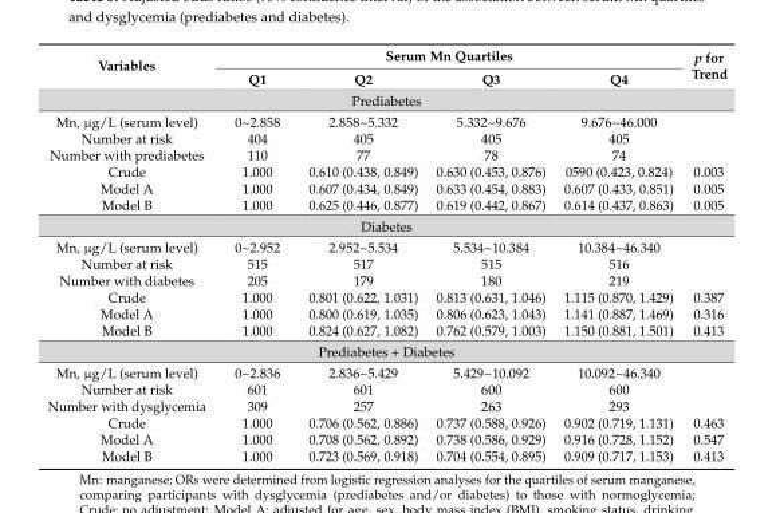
<table><thead><tr><td rowspan="2">Variables</td><td colspan="4">Serum Mn Quartiles</td><td rowspan="2">p for Trend</td></tr><tr><td>Q1</td><td>Q2</td><td>Q3</td><td>Q4</td></tr></thead><tbody><tr><td colspan="6">Prediabetes</td></tr><tr><td>Mn, µg/L (serum level)</td><td>0~2.858</td><td>2.858~5.332</td><td>5.332~9.676</td><td>9.676~46.000</td><td></td></tr><tr><td>Number at risk</td><td>404</td><td>405</td><td>405</td><td>405</td><td></td></tr><tr><td>Number with prediabetes</td><td>110</td><td>77</td><td>78</td><td>74</td><td></td></tr><tr><td>Crude</td><td>1.000</td><td>0.610 (0.438, 0.849)</td><td>0.630 (0.453, 0.876)</td><td>0590 (0.423, 0.824)</td><td>0.003</td></tr><tr><td>Model A</td><td>1.000</td><td>0.607 (0.434, 0.849)</td><td>0.633 (0.454, 0.883)</td><td>0.607 (0.433, 0.851)</td><td>0.005</td></tr><tr><td>Model B</td><td>1.000</td><td>0.625 (0.446, 0.877)</td><td>0.619 (0.442, 0.867)</td><td>0.614 (0.437, 0.863)</td><td>0.005</td></tr><tr><td colspan="6">Diabetes</td></tr><tr><td>Mn, µg/L (serum level)</td><td>0~2.952</td><td>2.952~5.534</td><td>5.534~10.384</td><td>10.384~46.340</td><td></td></tr><tr><td>Number at risk</td><td>515</td><td>517</td><td>515</td><td>516</td><td></td></tr><tr><td>Number with diabetes</td><td>205</td><td>179</td><td>180</td><td>219</td><td></td></tr><tr><td>Crude</td><td>1.000</td><td>0.801 (0.622, 1.031)</td><td>0.813 (0.631, 1.046)</td><td>1.115 (0.870, 1.429)</td><td>0.387</td></tr><tr><td>Model A</td><td>1.000</td><td>0.800 (0.619, 1.035)</td><td>0.806 (0.623, 1.043)</td><td>1.141 (0.887, 1.469)</td><td>0.316</td></tr><tr><td>Model B</td><td>1.000</td><td>0.824 (0.627, 1.082)</td><td>0.762 (0.579, 1.003)</td><td>1.150 (0.881, 1.501)</td><td>0.413</td></tr><tr><td colspan="6">Prediabetes + Diabetes</td></tr><tr><td>Mn, µg/L (serum level)</td><td>0~2.836</td><td>2.836~5.429</td><td>5.429~10.092</td><td>10.092~46.340</td><td></td></tr><tr><td>Number at risk</td><td>601</td><td>601</td><td>600</td><td>600</td><td></td></tr><tr><td>Number with dysglycemia</td><td>309</td><td>257</td><td>263</td><td>293</td><td></td></tr><tr><td>Crude</td><td>1.000</td><td>0.706 (0.562, 0.886)</td><td>0.737 (0.588, 0.926)</td><td>0.902 (0.719, 1.131)</td><td>0.463</td></tr><tr><td>Model A</td><td>1.000</td><td>0.708 (0.562, 0.892)</td><td>0.738 (0.586, 0.929)</td><td>0.916 (0.728, 1.152)</td><td>0.547</td></tr><tr><td>Model B</td><td>1.000</td><td>0.723 (0.569, 0.918)</td><td>0.704 (0.554, 0.895)</td><td>0.909 (0.717, 1.153)</td><td>0.413</td></tr></tbody></table>